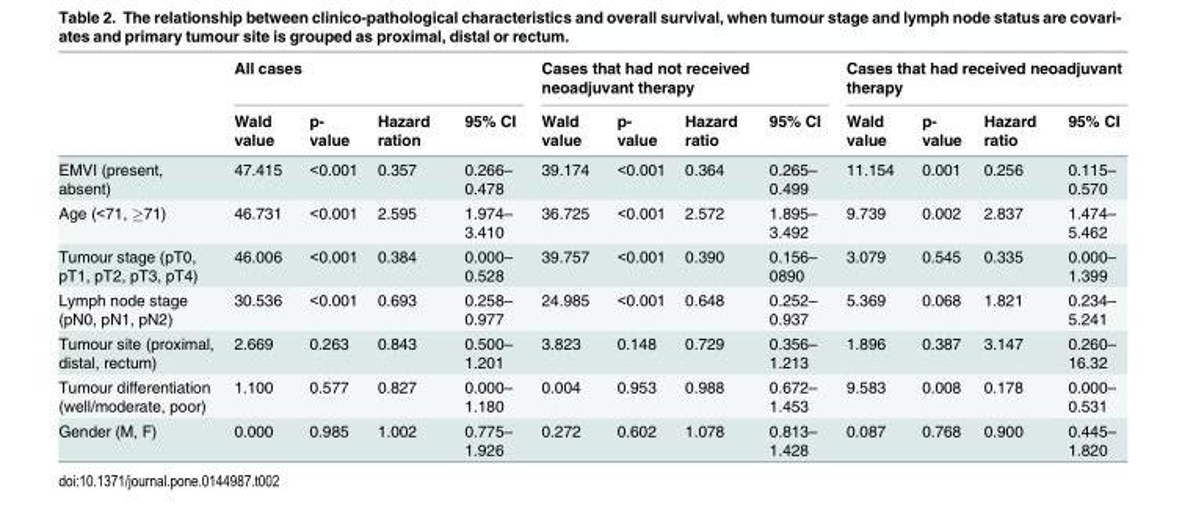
<table><thead><tr><td rowspan="2"></td><td colspan="4">All cases</td><td colspan="4">Cases that had not received neoadjuvant therapy</td><td colspan="4">Cases that had received neoadjuvant therapy</td></tr><tr><td>Wald value</td><td>p- value</td><td>Hazard ration</td><td>95% CI</td><td>Wald value</td><td>p- value</td><td>Hazard ratio</td><td>95% CI</td><td>Wald value</td><td>p- value</td><td>Hazard ratio</td><td>95% CI</td></tr></thead><tbody><tr><td>EMVI (present, absent)</td><td>47.415</td><td>&lt;0.001</td><td>0.357</td><td>0.266– 0.478</td><td>39.174</td><td>&lt;0.001</td><td>0.364</td><td>0.265– 0.499</td><td>11.154</td><td>0.001</td><td>0.256</td><td>0.115– 0.570</td></tr><tr><td>Age (&lt;71, ≥71)</td><td>46.731</td><td>&lt;0.001</td><td>2.595</td><td>1.974– 3.410</td><td>36.725</td><td>&lt;0.001</td><td>2.572</td><td>1.895– 3.492</td><td>9.739</td><td>0.002</td><td>2.837</td><td>1.474– 5.462</td></tr><tr><td>Tumour stage (pT0, pT1, pT2, pT3, pT4)</td><td>46.006</td><td>&lt;0.001</td><td>0.384</td><td>0.000– 0.528</td><td>39.757</td><td>&lt;0.001</td><td>0.390</td><td>0.156– 0890</td><td>3.079</td><td>0.545</td><td>0.335</td><td>0.000– 1.399</td></tr><tr><td>Lymph node stage (pN0, pN1, pN2)</td><td>30.536</td><td>&lt;0.001</td><td>0.693</td><td>0.258– 0.977</td><td>24.985</td><td>&lt;0.001</td><td>0.648</td><td>0.252– 0.937</td><td>5.369</td><td>0.068</td><td>1.821</td><td>0.234– 5.241</td></tr><tr><td>Tumour site (proximal, distal, rectum)</td><td>2.669</td><td>0.263</td><td>0.843</td><td>0.500– 1.201</td><td>3.823</td><td>0.148</td><td>0.729</td><td>0.356– 1.213</td><td>1.896</td><td>0.387</td><td>3.147</td><td>0.260– 16.32</td></tr><tr><td>Tumour differentiation (well/moderate, poor)</td><td>1.100</td><td>0.577</td><td>0.827</td><td>0.000– 1.180</td><td>0.004</td><td>0.953</td><td>0.988</td><td>0.672– 1.453</td><td>9.583</td><td>0.008</td><td>0.178</td><td>0.000– 0.531</td></tr><tr><td>Gender (M, F)</td><td>0.000</td><td>0.985</td><td>1.002</td><td>0.775– 1.926</td><td>0.272</td><td>0.602</td><td>1.078</td><td>0.813– 1.428</td><td>0.087</td><td>0.768</td><td>0.900</td><td>0.445– 1.820</td></tr></tbody></table>